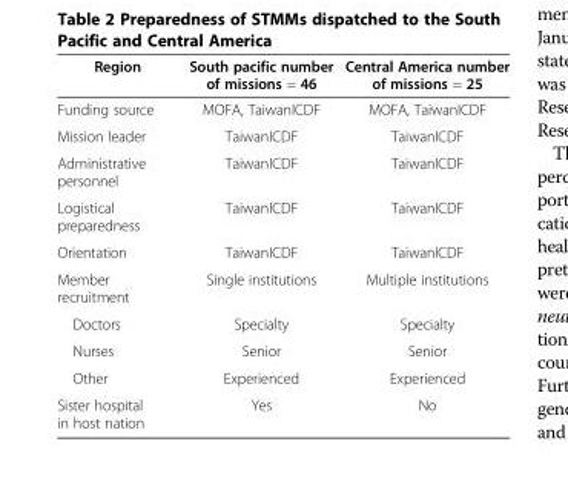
<table><thead><tr><td>Region</td><td>South pacific number of missions = 46</td><td>Central America number of missions = 25</td></tr></thead><tbody><tr><td>Funding source</td><td>MOFA, TaiwanICDF</td><td>MOFA, TaiwanICDF</td></tr><tr><td>Mission leader</td><td>TaiwanICDF</td><td>TaiwanICDF</td></tr><tr><td>Administrative personnel</td><td>TaiwanICDF</td><td>TaiwanICDF</td></tr><tr><td>Logistical preparedness</td><td>TaiwanICDF</td><td>TaiwanICDF</td></tr><tr><td>Orientation</td><td>TaiwanICDF</td><td>TaiwanICDF</td></tr><tr><td>Member recruitment</td><td>Single institutions</td><td>Multiple institutions</td></tr><tr><td>Doctors</td><td>Specialty</td><td>Specialty</td></tr><tr><td>Nurses</td><td>Senior</td><td>Senior</td></tr><tr><td>Other</td><td>Experienced</td><td>Experienced</td></tr><tr><td>Sister hospital in host nation</td><td>Yes</td><td>No</td></tr></tbody></table>